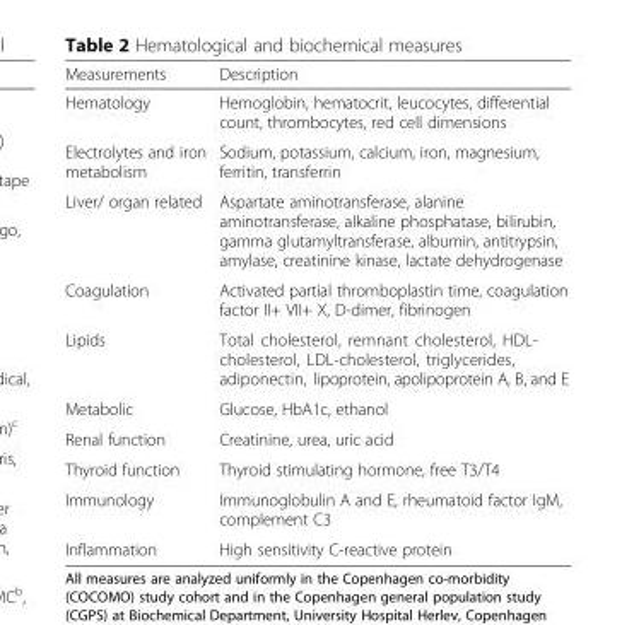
<table><thead><tr><td>Measurements</td><td>Description</td></tr></thead><tbody><tr><td>Hematology</td><td>Hemoglobin, hematocrit, leucocytes, differential count, thrombocytes, red cell dimensions</td></tr><tr><td>Electrolytes and iron metabolism</td><td>Sodium, potassium, calcium, iron, magnesium, ferritin, transferrin</td></tr><tr><td>Liver/ organ related</td><td>Aspartate aminotransferase, alanine aminotransferase, alkaline phosphatase, bilirubin, gamma glutamyltransferase, albumin, antitrypsin, amylase, creatinine kinase, lactate dehydrogenase</td></tr><tr><td>Coagulation</td><td>Activated partial thromboplastin time, coagulation factor II+ VII+ X, D-dimer, fibrinogen</td></tr><tr><td>Lipids</td><td>Total cholesterol, remnant cholesterol, HDL- cholesterol, LDL-cholesterol, triglycerides, adiponectin, lipoprotein, apolipoprotein A, B, and E</td></tr><tr><td>Metabolic</td><td>Glucose, HbA1c, ethanol</td></tr><tr><td>Renal function</td><td>Creatinine, urea, uric acid</td></tr><tr><td>Thyroid function</td><td>Thyroid stimulating hormone, free T3/T4</td></tr><tr><td>Immunology</td><td>Immunoglobulin A and E, rheumatoid factor IgM, complement C3</td></tr><tr><td>Inflammation</td><td>High sensitivity C-reactive protein</td></tr></tbody></table>